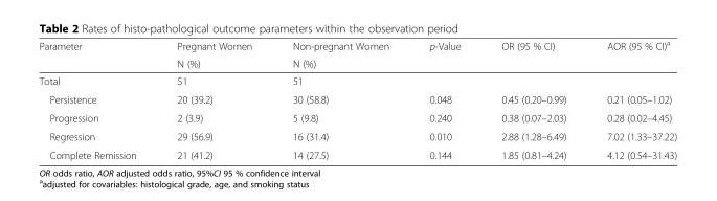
<table><thead><tr><td rowspan="2">Parameter</td><td rowspan="2">Pregnant Women N (%)</td><td rowspan="2">Non-pregnant Women N (%)</td><td rowspan="2">p-Value</td><td rowspan="2">OR (95 % CI)</td><td rowspan="2">AOR (95 % CI)<sup>a</sup></td></tr><tr></tr></thead><tbody><tr><td>Total</td><td>51</td><td>51</td><td></td><td></td><td></td></tr><tr><td>Persistence</td><td>20 (39.2)</td><td>30 (58.8)</td><td>0.048</td><td>0.45 (0.20–0.99)</td><td>0.21 (0.05–1.02)</td></tr><tr><td>Progression</td><td>2 (3.9)</td><td>5 (9.8)</td><td>0.240</td><td>0.38 (0.07–2.03)</td><td>0.28 (0.02–4.45)</td></tr><tr><td>Regression</td><td>29 (56.9)</td><td>16 (31.4)</td><td>0.010</td><td>2.88 (1.28–6.49)</td><td>7.02 (1.33–37.22)</td></tr><tr><td>Complete Remission</td><td>21 (41.2)</td><td>14 (27.5)</td><td>0.144</td><td>1.85 (0.81–4.24)</td><td>4.12 (0.54–31.43)</td></tr></tbody></table>